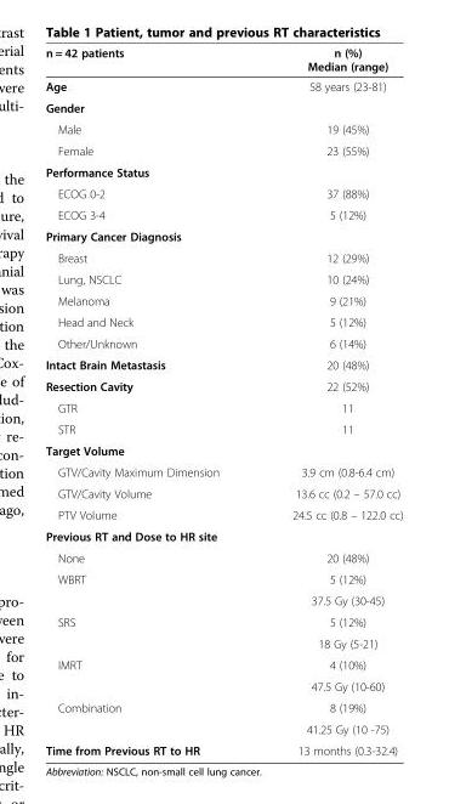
<table><thead><tr><td>n = 42 patients</td><td>n (%) Median (range)</td></tr></thead><tbody><tr><td>Age</td><td>58 years (23-81)</td></tr><tr><td colspan="2">Gender</td></tr><tr><td>Male</td><td>19 (45%)</td></tr><tr><td>Female</td><td>23 (55%)</td></tr><tr><td colspan="2">Performance Status</td></tr><tr><td>ECOG 0-2</td><td>37 (88%)</td></tr><tr><td>ECOG 3-4</td><td>5 (12%)</td></tr><tr><td colspan="2">Primary Cancer Diagnosis</td></tr><tr><td>Breast</td><td>12 (29%)</td></tr><tr><td>Lung, NSCLC</td><td>10 (24%)</td></tr><tr><td>Melanoma</td><td>9 (21%)</td></tr><tr><td>Head and Neck</td><td>5 (12%)</td></tr><tr><td>Other/Unknown</td><td>6 (14%)</td></tr><tr><td>Intact Brain Metastasis</td><td>20 (48%)</td></tr><tr><td>Resection Cavity</td><td>22 (52%)</td></tr><tr><td>GTR</td><td>11</td></tr><tr><td>STR</td><td>11</td></tr><tr><td colspan="2">Target Volume</td></tr><tr><td>GTV/Cavity Maximum Dimension</td><td>3.9 cm (0.8-6.4 cm)</td></tr><tr><td>GTV/Cavity Volume</td><td>13.6 cc (0.2 – 57.0 cc)</td></tr><tr><td>PTV Volume</td><td>24.5 cc (0.8 – 122.0 cc)</td></tr><tr><td colspan="2">Previous RT and Dose to HR site</td></tr><tr><td>None</td><td>20 (48%)</td></tr><tr><td rowspan="2">WBRT</td><td>5 (12%)</td></tr><tr><td>37.5 Gy (30-45)</td></tr><tr><td rowspan="2">SRS</td><td>5 (12%)</td></tr><tr><td>18 Gy (5-21)</td></tr><tr><td rowspan="2">IMRT</td><td>4 (10%)</td></tr><tr><td>47.5 Gy (10-60)</td></tr><tr><td rowspan="2">Combination</td><td>8 (19%)</td></tr><tr><td>41.25 Gy (10 -75)</td></tr><tr><td>Time from Previous RT to HR</td><td>13 months (0.3-32.4)</td></tr></tbody></table>